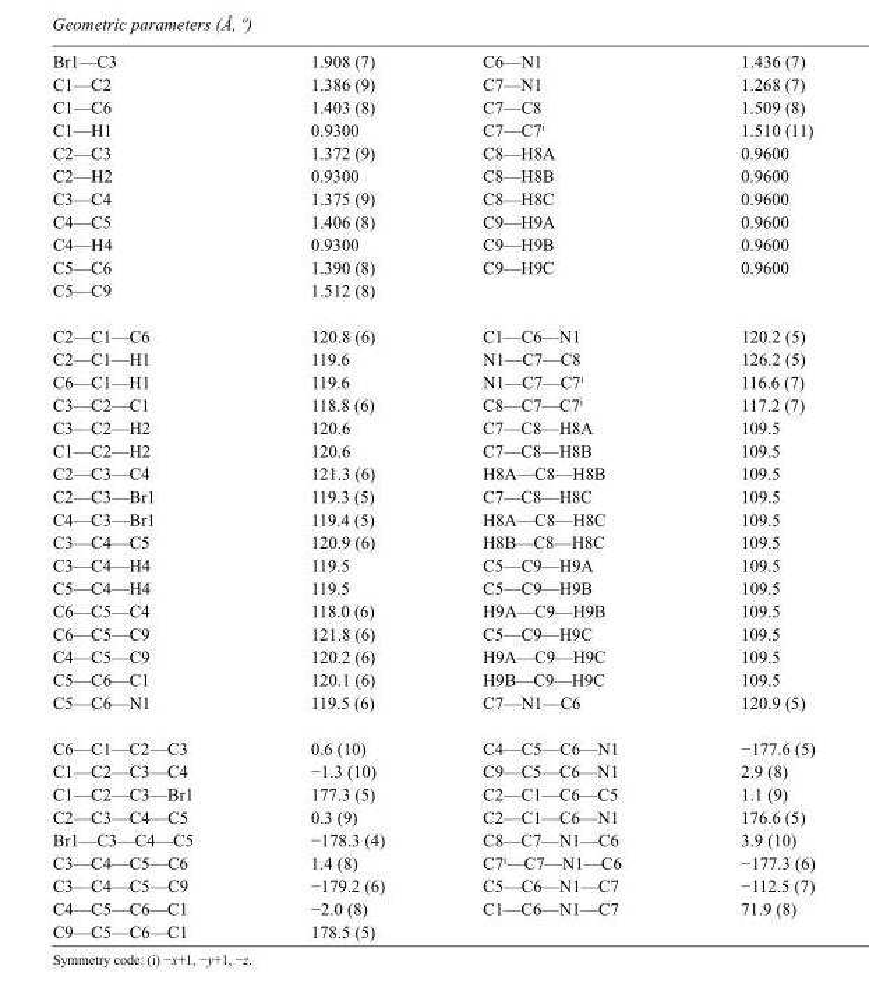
<table><tbody><tr><td>Br1—C3</td><td>1.908 (7)</td><td>C6—N1</td><td>1.436 (7)</td></tr><tr><td>C1—C2</td><td>1.386 (9)</td><td>C7—N1</td><td>1.268 (7)</td></tr><tr><td>C1—C6</td><td>1.403 (8)</td><td>C7—C8</td><td>1.509 (8)</td></tr><tr><td>C1—H1</td><td>0.9300</td><td>C7—C7<sup>i</sup></td><td>1.510 (11)</td></tr><tr><td>C2—C3</td><td>1.372 (9)</td><td>C8—H8A</td><td>0.9600</td></tr><tr><td>C2—H2</td><td>0.9300</td><td>C8—H8B</td><td>0.9600</td></tr><tr><td>C3—C4</td><td>1.375 (9)</td><td>C8—H8C</td><td>0.9600</td></tr><tr><td>C4—C5</td><td>1.406 (8)</td><td>C9—H9A</td><td>0.9600</td></tr><tr><td>C4—H4</td><td>0.9300</td><td>C9—H9B</td><td>0.9600</td></tr><tr><td>C5—C6</td><td>1.390 (8)</td><td>C9—H9C</td><td>0.9600</td></tr><tr><td>C5—C9</td><td>1.512 (8)</td><td></td><td></td></tr><tr><td>C2—C1—C6</td><td>120.8 (6)</td><td>C1—C6—N1</td><td>120.2 (5)</td></tr><tr><td>C2—C1—H1</td><td>119.6</td><td>N1—C7—C8</td><td>126.2 (5)</td></tr><tr><td>C6—C1—H1</td><td>119.6</td><td>N1—C7—C7<sup>i</sup></td><td>116.6 (7)</td></tr><tr><td>C3—C2—C1</td><td>118.8 (6)</td><td>C8—C7—C7<sup>i</sup></td><td>117.2 (7)</td></tr><tr><td>C3—C2—H2</td><td>120.6</td><td>C7—C8—H8A</td><td>109.5</td></tr><tr><td>C1—C2—H2</td><td>120.6</td><td>C7—C8—H8B</td><td>109.5</td></tr><tr><td>C2—C3—C4</td><td>121.3 (6)</td><td>H8A—C8—H8B</td><td>109.5</td></tr><tr><td>C2—C3—Br1</td><td>119.3 (5)</td><td>C7—C8—H8C</td><td>109.5</td></tr><tr><td>C4—C3—Br1</td><td>119.4 (5)</td><td>H8A—C8—H8C</td><td>109.5</td></tr><tr><td>C3—C4—C5</td><td>120.9 (6)</td><td>H8B—C8—H8C</td><td>109.5</td></tr><tr><td>C3—C4—H4</td><td>119.5</td><td>C5—C9—H9A</td><td>109.5</td></tr><tr><td>C5—C4—H4</td><td>119.5</td><td>C5—C9—H9B</td><td>109.5</td></tr><tr><td>C6—C5—C4</td><td>118.0 (6)</td><td>H9A—C9—H9B</td><td>109.5</td></tr><tr><td>C6—C5—C9</td><td>121.8 (6)</td><td>C5—C9—H9C</td><td>109.5</td></tr><tr><td>C4—C5—C9</td><td>120.2 (6)</td><td>H9A—C9—H9C</td><td>109.5</td></tr><tr><td>C5—C6—C1</td><td>120.1 (6)</td><td>H9B—C9—H9C</td><td>109.5</td></tr><tr><td>C5—C6—N1</td><td>119.5 (6)</td><td>C7—N1—C6</td><td>120.9 (5)</td></tr><tr><td>C6—C1—C2—C3</td><td>0.6 (10)</td><td>C4—C5—C6—N1</td><td>−177.6 (5)</td></tr><tr><td>C1—C2—C3—C4</td><td>−1.3 (10)</td><td>C9—C5—C6—N1</td><td>2.9 (8)</td></tr><tr><td>C1—C2—C3—Br1</td><td>177.3 (5)</td><td>C2—C1—C6—C5</td><td>1.1 (9)</td></tr><tr><td>C2—C3—C4—C5</td><td>0.3 (9)</td><td>C2—C1—C6—N1</td><td>176.6 (5)</td></tr><tr><td>Br1—C3—C4—C5</td><td>−178.3 (4)</td><td>C8—C7—N1—C6</td><td>3.9 (10)</td></tr><tr><td>C3—C4—C5—C6</td><td>1.4 (8)</td><td>C7<sup>i</sup>—C7—N1—C6</td><td>−177.3 (6)</td></tr><tr><td>C3—C4—C5—C9</td><td>−179.2 (6)</td><td>C5—C6—N1—C7</td><td>−112.5 (7)</td></tr><tr><td>C4—C5—C6—C1</td><td>−2.0 (8)</td><td>C1—C6—N1—C7</td><td>71.9 (8)</td></tr><tr><td>C9—C5—C6—C1</td><td>178.5 (5)</td><td></td><td></td></tr></tbody></table>